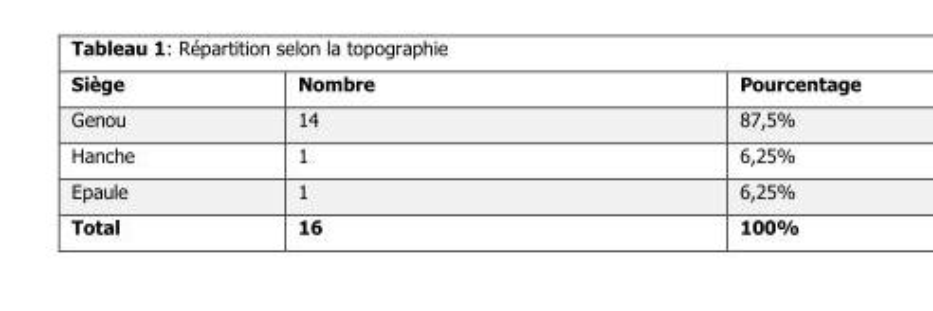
<table><thead><tr><td>Siège</td><td>Nombre</td><td>Pourcentage</td></tr></thead><tbody><tr><td>Genou</td><td>14</td><td>87,5%</td></tr><tr><td>Hanche</td><td>1</td><td>6,25%</td></tr><tr><td>Epaule</td><td>1</td><td>6,25%</td></tr><tr><td>Total</td><td>16</td><td>100%</td></tr></tbody></table>